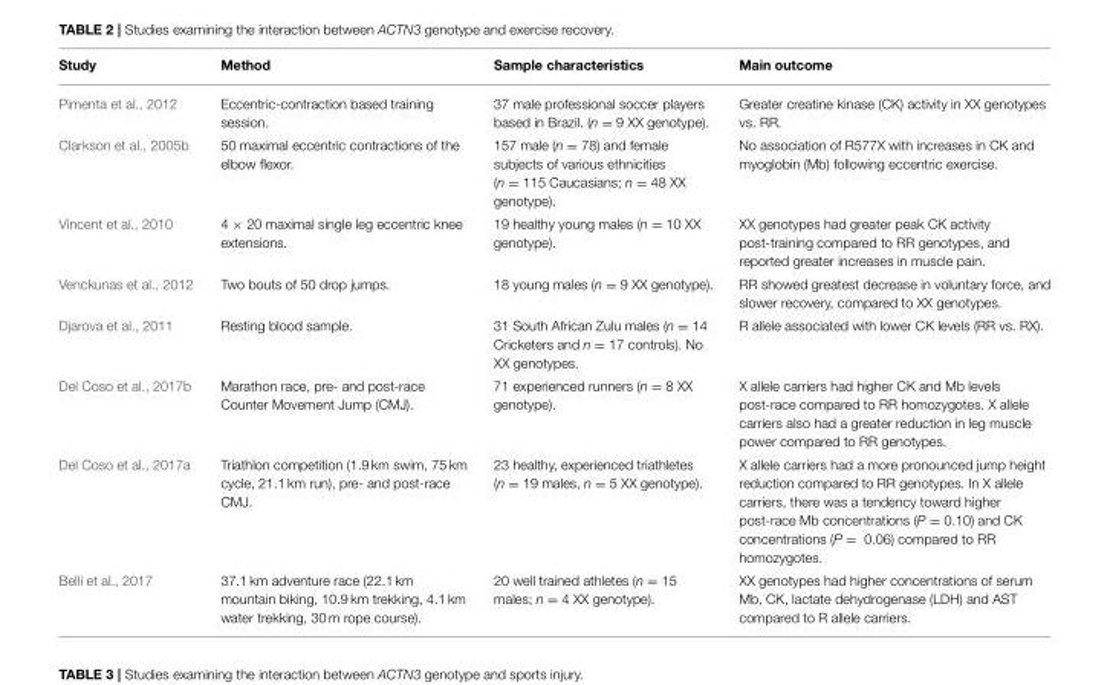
<table><thead><tr><td>Study</td><td>Method</td><td>Sample characteristics</td><td>Main outcome</td></tr></thead><tbody><tr><td>Pimenta et al., 2012</td><td>Eccentric-contraction based training session.</td><td>37 male professional soccer players based in Brazil. (n = 9 XX genotype).</td><td>Greater creatine kinase (CK) activity in XX genotypes vs. RR.</td></tr><tr><td>Clarkson et al., 2005b</td><td>50 maximal eccentric contractions of the elbow flexor.</td><td>157 male (n = 78) and female subjects of various ethnicities (n = 115 Caucasians; n = 48 XX genotype).</td><td>No association of R577X with increases in CK and myoglobin (Mb) following eccentric exercise.</td></tr><tr><td>Vincent et al., 2010</td><td>4 × 20 maximal single leg eccentric knee extensions.</td><td>19 healthy young males (n = 10 XX genotype).</td><td>XX genotypes had greater peak CK activity post-training compared to RR genotypes, and reported greater increases in muscle pain.</td></tr><tr><td>Venckunas et al., 2012</td><td>Two bouts of 50 drop jumps.</td><td>18 young males (n = 9 XX genotype).</td><td>RR showed greatest decrease in voluntary force, and slower recovery, compared to XX genotypes.</td></tr><tr><td>Djarova et al., 2011</td><td>Resting blood sample.</td><td>31 South African Zulu males (n = 14 Cricketers and n = 17 controls). No XX genotypes.</td><td>R allele associated with lower CK levels (RR vs. RX).</td></tr><tr><td>Del Coso et al., 2017b</td><td>Marathon race, pre- and post-race Counter Movement Jump (CMJ).</td><td>71 experienced runners (n = 8 XX genotype).</td><td>X allele carriers had higher CK and Mb levels post-race compared to RR homozygotes. X allele carriers also had a greater reduction in leg muscle power compared to RR genotypes.</td></tr><tr><td>Del Coso et al., 2017a</td><td>Triathlon competition (1.9 km swim, 75 km cycle, 21.1 km run), pre- and post-race CMJ.</td><td>23 healthy, experienced triathletes (n = 19 males, n = 5 XX genotype).</td><td>X allele carriers had a more pronounced jump height reduction compared to RR genotypes. In X allele carriers, there was a tendency toward higher post-race Mb concentrations (P = 0.10) and CK concentrations (P = 0.06) compared to RR homozygotes.</td></tr><tr><td>Belli et al., 2017</td><td>37.1 km adventure race (22.1 km mountain biking, 10.9 km trekking, 4.1 km water trekking, 30 m rope course).</td><td>20 well trained athletes (n = 15 males; n = 4 XX genotype).</td><td>XX genotypes had higher concentrations of serum Mb, CK, lactate dehydrogenase (LDH) and AST compared to R allele carriers.</td></tr></tbody></table>